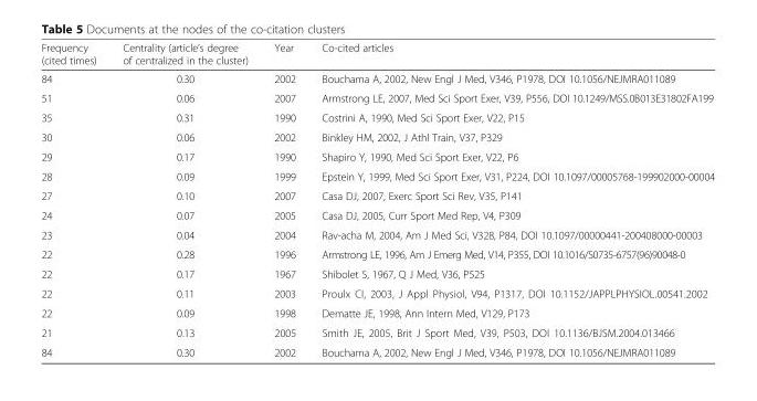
<table><thead><tr><td>Frequency (cited times)</td><td>Centrality (article’s degree of centralized in the cluster)</td><td>Year</td><td>Co-cited articles</td></tr></thead><tbody><tr><td>84</td><td>0.30</td><td>2002</td><td>Bouchama A, 2002, New Engl J Med, V346, P1978, DOI 10.1056/NEJMRA011089</td></tr><tr><td>51</td><td>0.06</td><td>2007</td><td>Armstrong LE, 2007, Med Sci Sport Exer, V39, P556, DOI 10.1249/MSS.0B013E31802FA199</td></tr><tr><td>35</td><td>0.31</td><td>1990</td><td>Costrini A, 1990, Med Sci Sport Exer, V22, P15</td></tr><tr><td>30</td><td>0.06</td><td>2002</td><td>Binkley HM, 2002, J Athl Train, V37, P329</td></tr><tr><td>29</td><td>0.17</td><td>1990</td><td>Shapiro Y, 1990, Med Sci Sport Exer, V22, P6</td></tr><tr><td>28</td><td>0.09</td><td>1999</td><td>Epstein Y, 1999, Med Sci Sport Exer, V31, P224, DOI 10.1097/00005768-199902000-00004</td></tr><tr><td>27</td><td>0.10</td><td>2007</td><td>Casa DJ, 2007, Exerc Sport Sci Rev, V35, P141</td></tr><tr><td>24</td><td>0.07</td><td>2005</td><td>Casa DJ, 2005, Curr Sport Med Rep, V4, P309</td></tr><tr><td>23</td><td>0.04</td><td>2004</td><td>Rav-acha M, 2004, Am J Med Sci, V328, P84, DOI 10.1097/00000441-200408000-00003</td></tr><tr><td>22</td><td>0.28</td><td>1996</td><td>Armstrong LE, 1996, Am J Emerg Med, V14, P355, DOI 10.1016/S0735-6757(96)90048-0</td></tr><tr><td>22</td><td>0.17</td><td>1967</td><td>Shibolet S, 1967, Q J Med, V36, P525</td></tr><tr><td>22</td><td>0.11</td><td>2003</td><td>Proulx CI, 2003, J Appl Physiol, V94, P1317, DOI 10.1152/JAPPLPHYSIOL.00541.2002</td></tr><tr><td>22</td><td>0.09</td><td>1998</td><td>Dematte JE, 1998, Ann Intern Med, V129, P173</td></tr><tr><td>21</td><td>0.13</td><td>2005</td><td>Smith JE, 2005, Brit J Sport Med, V39, P503, DOI 10.1136/BJSM.2004.013466</td></tr><tr><td>84</td><td>0.30</td><td>2002</td><td>Bouchama A, 2002, New Engl J Med, V346, P1978, DOI 10.1056/NEJMRA011089</td></tr></tbody></table>